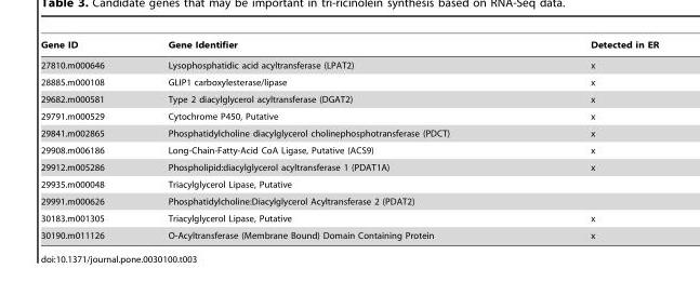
<table><thead><tr><td>Gene ID</td><td>Gene Identifier</td><td>Detected in ER</td></tr></thead><tbody><tr><td>27810.m000646</td><td>Lysophosphatidic acid acyltransferase (LPAT2)</td><td>x</td></tr><tr><td>28885.m000108</td><td>GLIP1 carboxylesterase/lipase</td><td>x</td></tr><tr><td>29682.m000581</td><td>Type 2 diacylglycerol acyltransferase (DGAT2)</td><td>x</td></tr><tr><td>29791.m000529</td><td>Cytochrome P450, Putative</td><td>x</td></tr><tr><td>29841.m002865</td><td>Phosphatidylcholine diacylglycerol cholinephosphotransferase (PDCT)</td><td>x</td></tr><tr><td>29908.m006186</td><td>Long-Chain-Fatty-Acid CoA Ligase, Putative (ACS9)</td><td>x</td></tr><tr><td>29912.m005286</td><td>Phospholipid:diacylglycerol acyltransferase 1 (PDAT1A)</td><td>x</td></tr><tr><td>29935.m000048</td><td>Triacylglycerol Lipase, Putative</td><td></td></tr><tr><td>29991.m000626</td><td>Phosphatidylcholine:Diacylglycerol Acyltransferase 2 (PDAT2)</td><td></td></tr><tr><td>30183.m001305</td><td>Triacylglycerol Lipase, Putative</td><td>x</td></tr><tr><td>30190.m011126</td><td>O-Acyltransferase (Membrane Bound) Domain Containing Protein</td><td>x</td></tr></tbody></table>